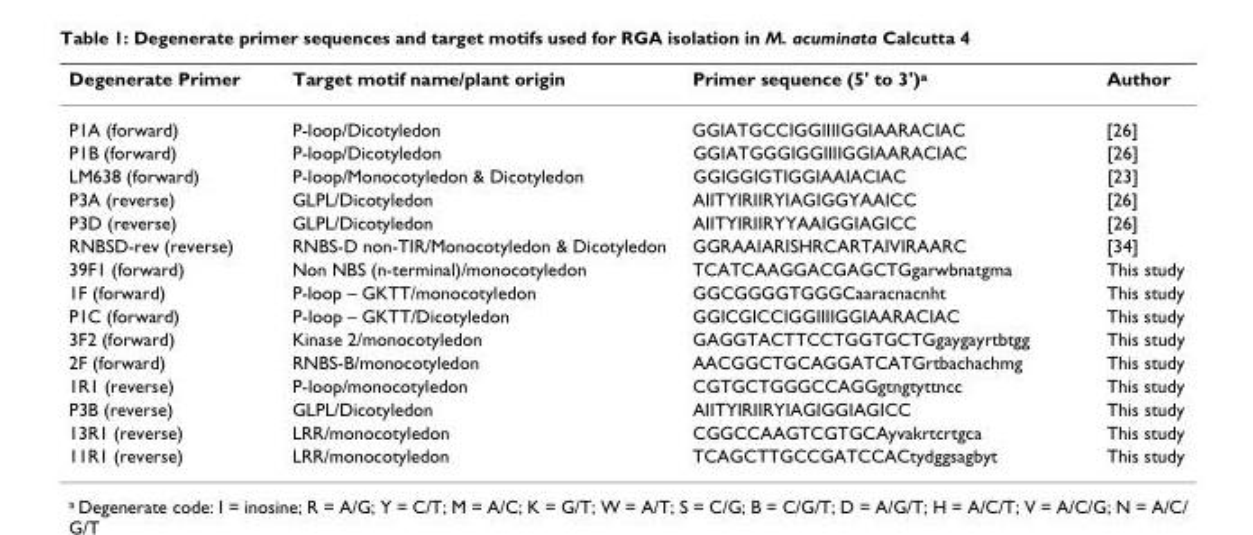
<table><thead><tr><td>Degenerate Primer</td><td>Target motif name/plant origin</td><td>Primer sequence (5&#x27; to 3&#x27;)<sup>a</sup></td><td>Author</td></tr></thead><tbody><tr><td>P1A (forward)</td><td>P-loop/Dicotyledon</td><td>GGIATGCCIGGIIIIGGIAARACIAC</td><td>[26]</td></tr><tr><td>P1B (forward)</td><td>P-loop/Dicotyledon</td><td>GGIATGGGIGGIIIIGGIAARACIAC</td><td>[26]</td></tr><tr><td>LM638 (forward)</td><td>P-loop/Monocotyledon &amp; Dicotyledon</td><td>GGIGGIGTIGGIAAIACIAC</td><td>[23]</td></tr><tr><td>P3A (reverse)</td><td>GLPL/Dicotyledon</td><td>AIITYIRIIRYIAGIGGYAAICC</td><td>[26]</td></tr><tr><td>P3D (reverse)</td><td>GLPL/Dicotyledon</td><td>AIITYIRIIRYYAAIGGIAGICC</td><td>[26]</td></tr><tr><td>RNBSD-rev (reverse)</td><td>RNBS-D non-TIR/Monocotyledon &amp; Dicotyledon</td><td>GGRAAIARISHRCARTAIVIRAARC</td><td>[34]</td></tr><tr><td>39F1 (forward)</td><td>Non NBS (n-terminal)/monocotyledon</td><td>TCATCAAGGACGAGCTGgarwbnatgma</td><td>This study</td></tr><tr><td>1F (forward)</td><td>P-loop – GKTT/monocotyledon</td><td>GGCGGGGTGGGCaaracnacnht</td><td>This study</td></tr><tr><td>P1C (forward)</td><td>P-loop – GKTT/Dicotyledon</td><td>GGICGICCIGGIIIIGGIAARACIAC</td><td>This study</td></tr><tr><td>3F2 (forward)</td><td>Kinase 2/monocotyledon</td><td>GAGGTACTTCCTGGTGCTGgaygayrtbtgg</td><td>This study</td></tr><tr><td>2F (forward)</td><td>RNBS-B/monocotyledon</td><td>AACGGCTGCAGGATCATGrtbachachmg</td><td>This study</td></tr><tr><td>1R1 (reverse)</td><td>P-loop/monocotyledon</td><td>CGTGCTGGGCCAGGgtngtyttncc</td><td>This study</td></tr><tr><td>P3B (reverse)</td><td>GLPL/Dicotyledon</td><td>AIITYIRIIRYIAGIGGIAGICC</td><td>This study</td></tr><tr><td>13R1 (reverse)</td><td>LRR/monocotyledon</td><td>CGGCCAAGTCGTGCAyvakrtcrtgca</td><td>This study</td></tr><tr><td>11R1 (reverse)</td><td>LRR/monocotyledon</td><td>TCAGCTTGCCGATCCACtydggsagbyt</td><td>This study</td></tr></tbody></table>